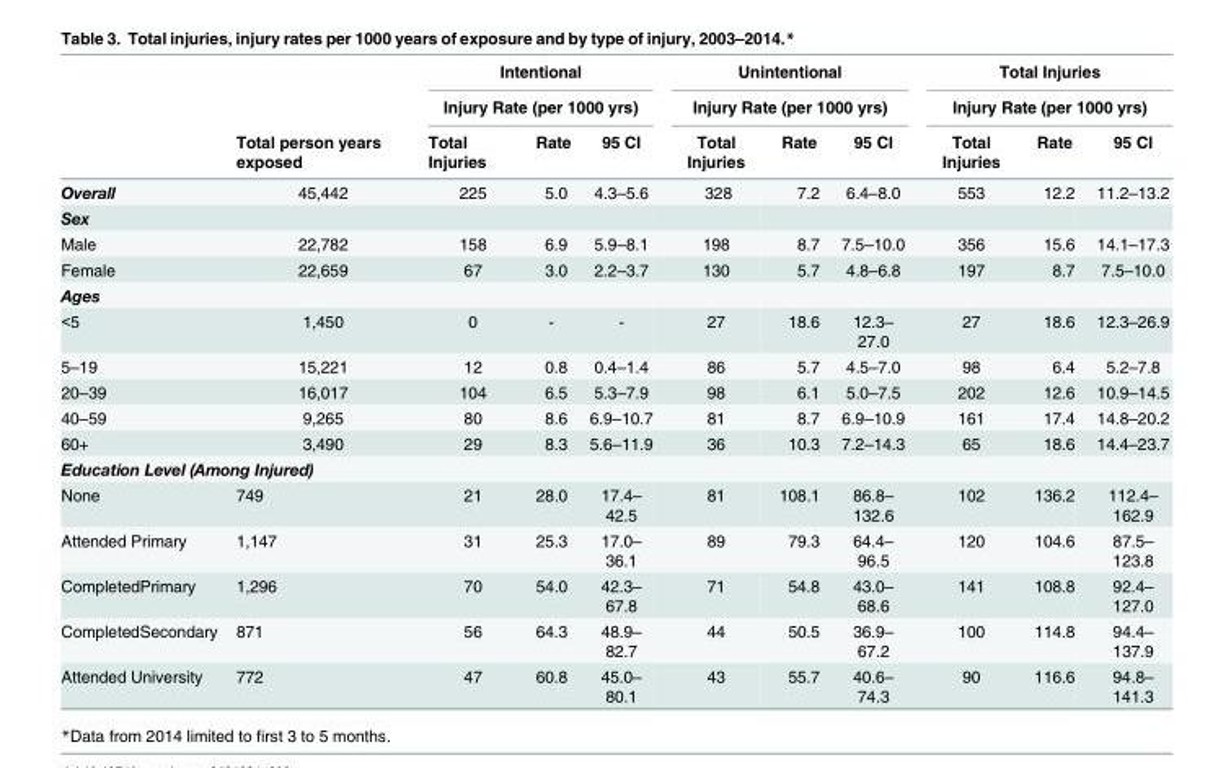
<table><thead><tr><td rowspan="3"></td><td rowspan="3">Total person years exposed</td><td rowspan="2" colspan="3">Intentional Injury Rate (per 1000 yrs)</td><td rowspan="2" colspan="3">Unintentional Injury Rate (per 1000 yrs)</td><td rowspan="2" colspan="3">Total Injuries Injury Rate (per 1000 yrs)</td></tr><tr></tr><tr><td>Total Injuries</td><td>Rate</td><td>95 CI</td><td>Total Injuries</td><td>Rate</td><td>95 CI</td><td>Total Injuries</td><td>Rate</td><td>95 CI</td></tr></thead><tbody><tr><td>Overall</td><td>45,442</td><td>225</td><td>5.0</td><td>4.3–5.6</td><td>328</td><td>7.2</td><td>6.4–8.0</td><td>553</td><td>12.2</td><td>11.2–13.2</td></tr><tr><td colspan="11">Sex</td></tr><tr><td>Male</td><td>22,782</td><td>158</td><td>6.9</td><td>5.9–8.1</td><td>198</td><td>8.7</td><td>7.5–10.0</td><td>356</td><td>15.6</td><td>14.1–17.3</td></tr><tr><td>Female</td><td>22,659</td><td>67</td><td>3.0</td><td>2.2–3.7</td><td>130</td><td>5.7</td><td>4.8–6.8</td><td>197</td><td>8.7</td><td>7.5–10.0</td></tr><tr><td colspan="11">Ages</td></tr><tr><td>&lt;5</td><td>1,450</td><td>0</td><td>-</td><td>-</td><td>27</td><td>18.6</td><td>12.3– 27.0</td><td>27</td><td>18.6</td><td>12.3–26.9</td></tr><tr><td>5–19</td><td>15,221</td><td>12</td><td>0.8</td><td>0.4–1.4</td><td>86</td><td>5.7</td><td>4.5–7.0</td><td>98</td><td>6.4</td><td>5.2–7.8</td></tr><tr><td>20–39</td><td>16,017</td><td>104</td><td>6.5</td><td>5.3–7.9</td><td>98</td><td>6.1</td><td>5.0–7.5</td><td>202</td><td>12.6</td><td>10.9–14.5</td></tr><tr><td>40–59</td><td>9,265</td><td>80</td><td>8.6</td><td>6.9–10.7</td><td>81</td><td>8.7</td><td>6.9–10.9</td><td>161</td><td>17.4</td><td>14.8–20.2</td></tr><tr><td>60+</td><td>3,490</td><td>29</td><td>8.3</td><td>5.6–11.9</td><td>36</td><td>10.3</td><td>7.2–14.3</td><td>65</td><td>18.6</td><td>14.4–23.7</td></tr><tr><td colspan="11">Education Level (Among Injured)</td></tr><tr><td>None</td><td>749</td><td>21</td><td>28.0</td><td>17.4– 42.5</td><td>81</td><td>108.1</td><td>86.8– 132.6</td><td>102</td><td>136.2</td><td>112.4– 162.9</td></tr><tr><td>Attended Primary</td><td>1,147</td><td>31</td><td>25.3</td><td>17.0– 36.1</td><td>89</td><td>79.3</td><td>64.4– 96.5</td><td>120</td><td>104.6</td><td>87.5– 123.8</td></tr><tr><td>CompletedPrimary</td><td>1,296</td><td>70</td><td>54.0</td><td>42.3– 67.8</td><td>71</td><td>54.8</td><td>43.0– 68.6</td><td>141</td><td>108.8</td><td>92.4– 127.0</td></tr><tr><td>CompletedSecondary</td><td>871</td><td>56</td><td>64.3</td><td>48.9– 82.7</td><td>44</td><td>50.5</td><td>36.9– 67.2</td><td>100</td><td>114.8</td><td>94.4– 137.9</td></tr><tr><td>Attended University</td><td>772</td><td>47</td><td>60.8</td><td>45.0– 80.1</td><td>43</td><td>55.7</td><td>40.6– 74.3</td><td>90</td><td>116.6</td><td>94.8– 141.3</td></tr></tbody></table>